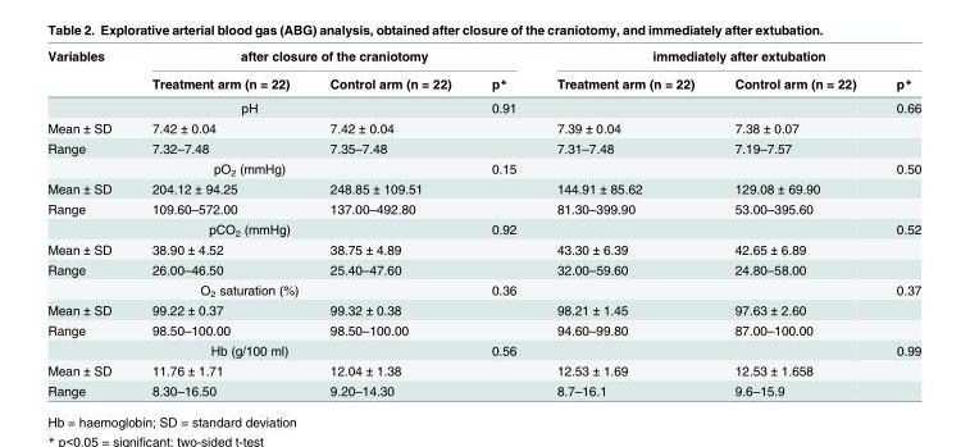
<table><thead><tr><td rowspan="2">Variables</td><td colspan="3">after closure of the craniotomy</td><td colspan="3">immediately after extubation</td></tr><tr><td>Treatment arm (n = 22)</td><td>Control arm (n = 22)</td><td>p*</td><td>Treatment arm (n = 22)</td><td>Control arm (n = 22)</td><td>p*</td></tr></thead><tbody><tr><td colspan="3">pH</td><td>0.91</td><td colspan="2"></td><td>0.66</td></tr><tr><td>Mean ± SD</td><td>7.42 ± 0.04</td><td>7.42 ± 0.04</td><td></td><td>7.39 ± 0.04</td><td>7.38 ± 0.07</td><td></td></tr><tr><td>Range</td><td>7.32–7.48</td><td>7.35–7.48</td><td></td><td>7.31–7.48</td><td>7.19–7.57</td><td></td></tr><tr><td colspan="3">pO<sub>2</sub> (mmHg)</td><td>0.15</td><td colspan="2"></td><td>0.50</td></tr><tr><td>Mean ± SD</td><td>204.12 ± 94.25</td><td>248.85 ± 109.51</td><td></td><td>144.91 ± 85.62</td><td>129.08 ± 69.90</td><td></td></tr><tr><td>Range</td><td>109.60–572.00</td><td>137.00–492.80</td><td></td><td>81.30–399.90</td><td>53.00–395.60</td><td></td></tr><tr><td colspan="3">pCO<sub>2</sub> (mmHg)</td><td>0.92</td><td colspan="2"></td><td>0.52</td></tr><tr><td>Mean ± SD</td><td>38.90 ± 4.52</td><td>38.75 ± 4.89</td><td></td><td>43.30 ± 6.39</td><td>42.65 ± 6.89</td><td></td></tr><tr><td>Range</td><td>26.00–46.50</td><td>25.40–47.60</td><td></td><td>32.00–59.60</td><td>24.80–58.00</td><td></td></tr><tr><td colspan="3">O<sub>2</sub> saturation (%)</td><td>0.36</td><td colspan="2"></td><td>0.37</td></tr><tr><td>Mean ± SD</td><td>99.22 ± 0.37</td><td>99.32 ± 0.38</td><td></td><td>98.21 ± 1.45</td><td>97.63 ± 2.60</td><td></td></tr><tr><td>Range</td><td>98.50–100.00</td><td>98.50–100.00</td><td></td><td>94.60–99.80</td><td>87.00–100.00</td><td></td></tr><tr><td colspan="3">Hb (g/100 ml)</td><td>0.56</td><td colspan="2"></td><td>0.99</td></tr><tr><td>Mean ± SD</td><td>11.76 ± 1.71</td><td>12.04 ± 1.38</td><td></td><td>12.53 ± 1.69</td><td>12.53 ± 1.658</td><td></td></tr><tr><td>Range</td><td>8.30–16.50</td><td>9.20–14.30</td><td></td><td>8.7–16.1</td><td>9.6–15.9</td><td></td></tr></tbody></table>